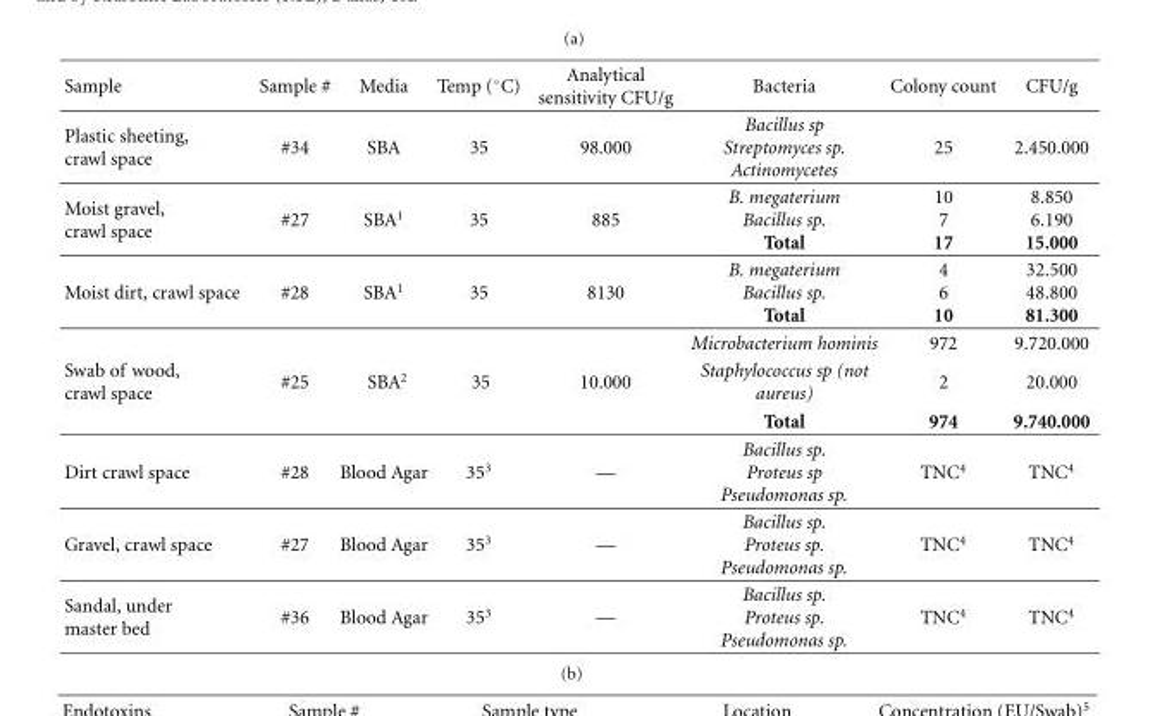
<table><thead><tr><td>Sample</td><td>Sample #</td><td>Media</td><td>Temp (◦C)</td><td>Analytical sensitivity CFU/g</td><td>Bacteria</td><td>Colony count</td><td>CFU/g</td></tr></thead><tbody><tr><td>Plastic sheeting, crawl space</td><td>#34</td><td>SBA</td><td>35</td><td>98.000</td><td>Bacillus sp Streptomyces sp. Actinomycetes</td><td>25</td><td>2.450.000</td></tr><tr><td>Moist gravel, crawl space</td><td>#27</td><td>SBA<sup>1</sup></td><td>35</td><td>885</td><td>B. megaterium Bacillus sp. Total</td><td>10 7 17</td><td>8.850 6.190 15.000</td></tr><tr><td>Moist dirt, crawl space</td><td>#28</td><td>SBA<sup>1</sup></td><td>35</td><td>8130</td><td>B. megaterium Bacillus sp. Total</td><td>4 6 10</td><td>32.500 48.800 81.300</td></tr><tr><td>Swab of wood, crawl space</td><td>#25</td><td>SBA<sup>2</sup></td><td>35</td><td>10.000</td><td>Microbacterium hominis Staphylococcus sp (not aureus) Total</td><td>972 2 974</td><td>9.720.000 20.000 9.740.000</td></tr><tr><td>Dirt crawl space</td><td>#28</td><td>Blood Agar</td><td>35<sup>3</sup></td><td>—</td><td>Bacillus sp. Proteus sp Pseudomonas sp.</td><td>TNC<sup>4</sup></td><td>TNC<sup>4</sup></td></tr><tr><td>Gravel, crawl space</td><td>#27</td><td>Blood Agar</td><td>35<sup>3</sup></td><td>—</td><td>Bacillus sp. Proteus sp. Pseudomonas sp.</td><td>TNC<sup>4</sup></td><td>TNC<sup>4</sup></td></tr><tr><td>Sandal, under master bed</td><td>#36</td><td>Blood Agar</td><td>35<sup>3</sup></td><td>—</td><td>Bacillus sp. Proteus sp. Pseudomonas sp.</td><td>TNC<sup>4</sup></td><td>TNC<sup>4</sup></td></tr></tbody></table>